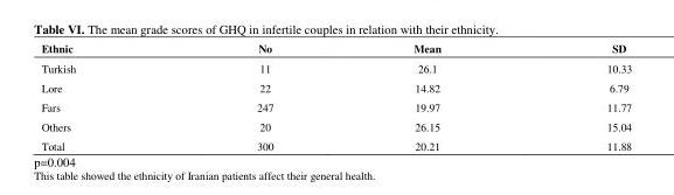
<table><thead><tr><td>Ethnic</td><td>No</td><td>Mean</td><td>SD</td></tr></thead><tbody><tr><td>Turkish</td><td>11</td><td>26.1</td><td>10.33</td></tr><tr><td>Lore</td><td>22</td><td>14.82</td><td>6.79</td></tr><tr><td>Fars</td><td>247</td><td>19.97</td><td>11.77</td></tr><tr><td>Others</td><td>20</td><td>26.15</td><td>15.04</td></tr><tr><td>Total</td><td>300</td><td>20.21</td><td>11.88</td></tr></tbody></table>